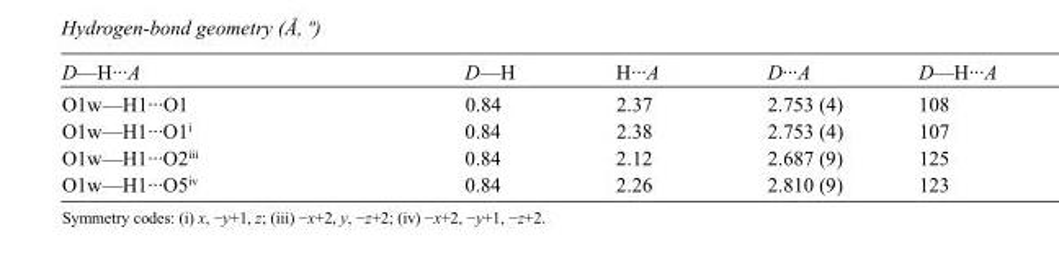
<table><tbody><tr><td>D—H···A</td><td>D—H</td><td>H···A</td><td>D···A</td><td>D—H···A</td></tr><tr><td>O1w—H1···O1</td><td>0.84</td><td>2.37</td><td>2.753 (4)</td><td>108</td></tr><tr><td>O1w—H1···O1<sup>i</sup></td><td>0.84</td><td>2.38</td><td>2.753 (4)</td><td>107</td></tr><tr><td>O1w—H1···O2<sup>iii</sup></td><td>0.84</td><td>2.12</td><td>2.687 (9)</td><td>125</td></tr><tr><td>O1w—H1···O5<sup>iv</sup></td><td>0.84</td><td>2.26</td><td>2.810 (9)</td><td>123</td></tr></tbody></table>